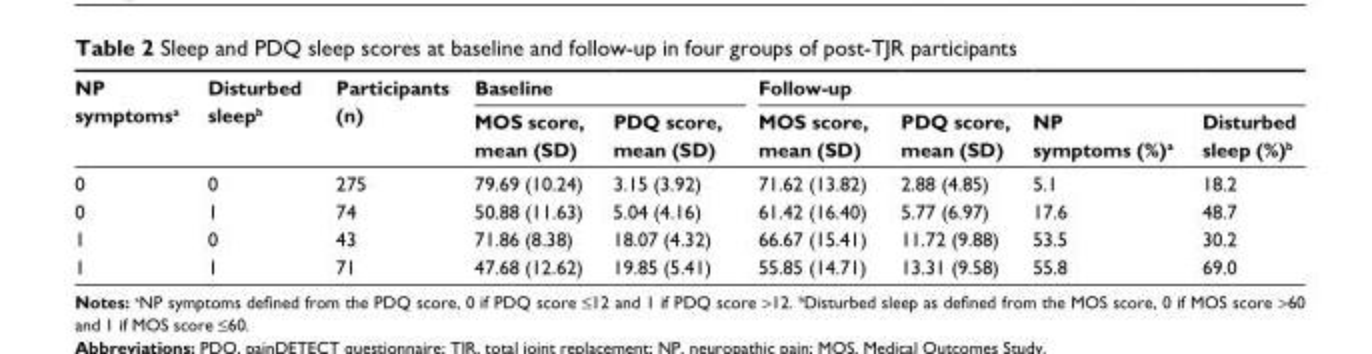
<table><thead><tr><td rowspan="2">NP symptoms<sup>a</sup></td><td rowspan="2">Disturbed sleep<sup>b</sup></td><td rowspan="2">Participants (n)</td><td colspan="2">Baseline</td><td colspan="4">Follow-up</td></tr><tr><td>MOS score, mean (SD)</td><td>PDQ score, mean (SD)</td><td>MOS score, mean (SD)</td><td>PDQ score, mean (SD)</td><td>NP symptoms (%)<sup>a</sup></td><td>Disturbed sleep (%)<sup>b</sup></td></tr></thead><tbody><tr><td>0</td><td>0</td><td>275</td><td>79.69 (10.24)</td><td>3.15 (3.92)</td><td>71.62 (13.82)</td><td>2.88 (4.85)</td><td>5.1</td><td>18.2</td></tr><tr><td>0</td><td>1</td><td>74</td><td>50.88 (11.63)</td><td>5.04 (4.16)</td><td>61.42 (16.40)</td><td>5.77 (6.97)</td><td>17.6</td><td>48.7</td></tr><tr><td>1</td><td>0</td><td>43</td><td>71.86 (8.38)</td><td>18.07 (4.32)</td><td>66.67 (15.41)</td><td>11.72 (9.88)</td><td>53.5</td><td>30.2</td></tr><tr><td>1</td><td>1</td><td>71</td><td>47.68 (12.62)</td><td>19.85 (5.41)</td><td>55.85 (14.71)</td><td>13.31 (9.58)</td><td>55.8</td><td>69.0</td></tr></tbody></table>